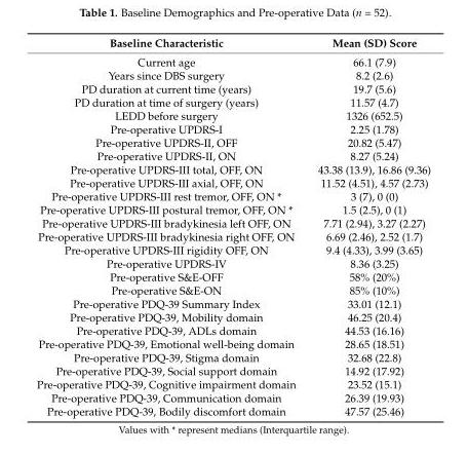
<table><thead><tr><td>Baseline Characteristic</td><td>Mean (SD) Score</td></tr></thead><tbody><tr><td>Current age</td><td>66.1 (7.9)</td></tr><tr><td>Years since DBS surgery</td><td>8.2 (2.6)</td></tr><tr><td>PD duration at current time (years)</td><td>19.7 (5.6)</td></tr><tr><td>PD duration at time of surgery (years)</td><td>11.57 (4.7)</td></tr><tr><td>LEDD before surgery</td><td>1326 (652.5)</td></tr><tr><td>Pre-operative UPDRS-I</td><td>2.25 (1.78)</td></tr><tr><td>Pre-operative UPDRS-II, OFF</td><td>20.82 (5.47)</td></tr><tr><td>Pre-operative UPDRS-II, ON</td><td>8.27 (5.24)</td></tr><tr><td>Pre-operative UPDRS-III total, OFF, ON</td><td>43.38 (13.9), 16.86 (9.36)</td></tr><tr><td>Pre-operative UPDRS-III axial, OFF, ON</td><td>11.52 (4.51), 4.57 (2.73)</td></tr><tr><td>Pre-operative UPDRS-III rest tremor, OFF, ON *</td><td>3 (7), 0 (0)</td></tr><tr><td>Pre-operative UPDRS-III postural tremor, OFF, ON *</td><td>1.5 (2.5), 0 (1)</td></tr><tr><td>Pre-operative UPDRS-III bradykinesia left OFF, ON</td><td>7.71 (2.94), 3.27 (2.27)</td></tr><tr><td>Pre-operative UPDRS-III bradykinesia right OFF, ON</td><td>6.69 (2.46), 2.52 (1.7)</td></tr><tr><td>Pre-operative UPDRS-III rigidity OFF, ON</td><td>9.4 (4.33), 3.99 (3.65)</td></tr><tr><td>Pre-operative UPDRS-IV</td><td>8.36 (3.25)</td></tr><tr><td>Pre-operative S&amp;E-OFF</td><td>58% (20%)</td></tr><tr><td>Pre-operative S&amp;E-ON</td><td>85% (10%)</td></tr><tr><td>Pre-operative PDQ-39 Summary Index</td><td>33.01 (12.1)</td></tr><tr><td>Pre-operative PDQ-39, Mobility domain</td><td>46.25 (20.4)</td></tr><tr><td>Pre-operative PDQ-39, ADLs domain</td><td>44.53 (16.16)</td></tr><tr><td>Pre-operative PDQ-39, Emotional well-being domain</td><td>28.65 (18.51)</td></tr><tr><td>Pre-operative PDQ-39, Stigma domain</td><td>32.68 (22.8)</td></tr><tr><td>Pre-operative PDQ-39, Social support domain</td><td>14.92 (17.92)</td></tr><tr><td>Pre-operative PDQ-39, Cognitive impairment domain</td><td>23.52 (15.1)</td></tr><tr><td>Pre-operative PDQ-39, Communication domain</td><td>26.39 (19.93)</td></tr><tr><td>Pre-operative PDQ-39, Bodily discomfort domain</td><td>47.57 (25.46)</td></tr></tbody></table>